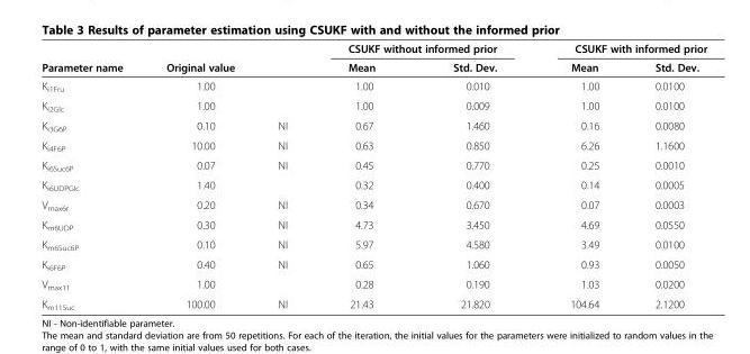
<table><thead><tr><td rowspan="2">Parameter name</td><td rowspan="2">Original value</td><td rowspan="2"></td><td colspan="2">CSUKF without informed prior</td><td colspan="2">CSUKF with informed prior</td></tr><tr><td>Mean</td><td>Std. Dev.</td><td>Mean</td><td>Std. Dev.</td></tr></thead><tbody><tr><td>K<sub>i1Fru</sub></td><td>1.00</td><td></td><td>1.00</td><td>0.010</td><td>1.00</td><td>0.0100</td></tr><tr><td>K<sub>i2Glc</sub></td><td>1.00</td><td></td><td>1.00</td><td>0.009</td><td>1.00</td><td>0.0100</td></tr><tr><td>K<sub>i3G6P</sub></td><td>0.10</td><td>NI</td><td>0.67</td><td>1.460</td><td>0.16</td><td>0.0080</td></tr><tr><td>K<sub>i4F6P</sub></td><td>10.00</td><td>NI</td><td>0.63</td><td>0.850</td><td>6.26</td><td>1.1600</td></tr><tr><td>K<sub>i6Suc6P</sub></td><td>0.07</td><td>NI</td><td>0.45</td><td>0.770</td><td>0.25</td><td>0.0010</td></tr><tr><td>K<sub>i6UDPGlc</sub></td><td>1.40</td><td></td><td>0.32</td><td>0.400</td><td>0.14</td><td>0.0005</td></tr><tr><td>V<sub>max6r</sub></td><td>0.20</td><td>NI</td><td>0.34</td><td>0.670</td><td>0.07</td><td>0.0003</td></tr><tr><td>K<sub>m6UDP</sub></td><td>0.30</td><td>NI</td><td>4.73</td><td>3.450</td><td>4.69</td><td>0.0550</td></tr><tr><td>K<sub>m6Suc6P</sub></td><td>0.10</td><td>NI</td><td>5.97</td><td>4.580</td><td>3.49</td><td>0.0100</td></tr><tr><td>K<sub>i6F6P</sub></td><td>0.40</td><td>NI</td><td>0.65</td><td>1.060</td><td>0.93</td><td>0.0050</td></tr><tr><td>V<sub>max11</sub></td><td>1.00</td><td></td><td>0.28</td><td>0.190</td><td>1.03</td><td>0.0200</td></tr><tr><td>K<sub>m11Suc</sub></td><td>100.00</td><td>NI</td><td>21.43</td><td>21.820</td><td>104.64</td><td>2.1200</td></tr></tbody></table>